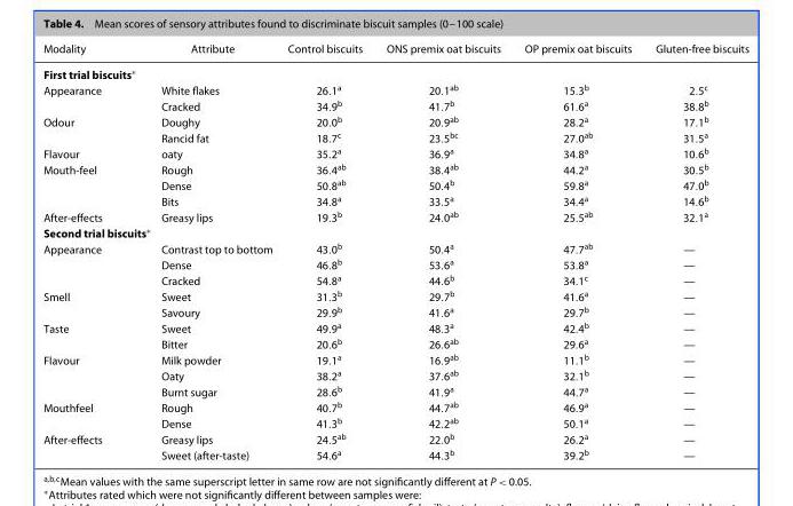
<table><thead><tr><td>Modality</td><td>Attribute</td><td>Control biscuits</td><td>ONS premix oat biscuits</td><td>OP premix oat biscuits</td><td>Gluten-free biscuits</td></tr></thead><tbody><tr><td colspan="6">First trial biscuits∗</td></tr><tr><td rowspan="2">Appearance</td><td>White flakes</td><td>26.1<sup>a</sup></td><td>20.1<sup>ab</sup></td><td>15.3<sup>b</sup></td><td>2.5<sup>c</sup></td></tr><tr><td>Cracked</td><td>34.9<sup>b</sup></td><td>41.7<sup>b</sup></td><td>61.6<sup>a</sup></td><td>38.8<sup>b</sup></td></tr><tr><td rowspan="2">Odour</td><td>Doughy</td><td>20.0<sup>b</sup></td><td>20.9<sup>ab</sup></td><td>28.2<sup>a</sup></td><td>17.1<sup>b</sup></td></tr><tr><td>Rancid fat</td><td>18.7<sup>c</sup></td><td>23.5<sup>bc</sup></td><td>27.0<sup>ab</sup></td><td>31.5<sup>a</sup></td></tr><tr><td>Flavour</td><td>oaty</td><td>35.2<sup>a</sup></td><td>36.9<sup>a</sup></td><td>34.8<sup>a</sup></td><td>10.6<sup>b</sup></td></tr><tr><td rowspan="3">Mouth-feel</td><td>Rough</td><td>36.4<sup>ab</sup></td><td>38.4<sup>ab</sup></td><td>44.2<sup>a</sup></td><td>30.5<sup>b</sup></td></tr><tr><td>Dense</td><td>50.8<sup>ab</sup></td><td>50.4<sup>b</sup></td><td>59.8<sup>a</sup></td><td>47.0<sup>b</sup></td></tr><tr><td>Bits</td><td>34.8<sup>a</sup></td><td>33.5<sup>a</sup></td><td>34.4<sup>a</sup></td><td>14.6<sup>b</sup></td></tr><tr><td>After-effects</td><td>Greasy lips</td><td>19.3<sup>b</sup></td><td>24.0<sup>ab</sup></td><td>25.5<sup>ab</sup></td><td>32.1<sup>a</sup></td></tr><tr><td colspan="6">Second trial biscuits∗</td></tr><tr><td rowspan="3">Appearance</td><td>Contrast top to bottom</td><td>43.0<sup>b</sup></td><td>50.4<sup>a</sup></td><td>47.7<sup>ab</sup></td><td>—</td></tr><tr><td>Dense</td><td>46.8<sup>b</sup></td><td>53.6<sup>a</sup></td><td>53.8<sup>a</sup></td><td>—</td></tr><tr><td>Cracked</td><td>54.8<sup>a</sup></td><td>44.6<sup>b</sup></td><td>34.1<sup>c</sup></td><td>—</td></tr><tr><td rowspan="2">Smell</td><td>Sweet</td><td>31.3<sup>b</sup></td><td>29.7<sup>b</sup></td><td>41.6<sup>a</sup></td><td>—</td></tr><tr><td>Savoury</td><td>29.9<sup>b</sup></td><td>41.6<sup>a</sup></td><td>29.7<sup>b</sup></td><td>—</td></tr><tr><td rowspan="2">Taste</td><td>Sweet</td><td>49.9<sup>a</sup></td><td>48.3<sup>a</sup></td><td>42.4<sup>b</sup></td><td>—</td></tr><tr><td>Bitter</td><td>20.6<sup>b</sup></td><td>26.6<sup>ab</sup></td><td>29.6<sup>a</sup></td><td>—</td></tr><tr><td rowspan="3">Flavour</td><td>Milk powder</td><td>19.1<sup>a</sup></td><td>16.9<sup>ab</sup></td><td>11.1<sup>b</sup></td><td>—</td></tr><tr><td>Oaty</td><td>38.2<sup>a</sup></td><td>37.6<sup>ab</sup></td><td>32.1<sup>b</sup></td><td>—</td></tr><tr><td>Burnt sugar</td><td>28.6<sup>b</sup></td><td>41.9<sup>a</sup></td><td>44.7<sup>a</sup></td><td>—</td></tr><tr><td rowspan="2">Mouthfeel</td><td>Rough</td><td>40.7<sup>b</sup></td><td>44.7<sup>ab</sup></td><td>46.9<sup>a</sup></td><td>—</td></tr><tr><td>Dense</td><td>41.3<sup>b</sup></td><td>42.2<sup>ab</sup></td><td>50.1<sup>a</sup></td><td>—</td></tr><tr><td rowspan="2">After-effects</td><td>Greasy lips</td><td>24.5<sup>ab</sup></td><td>22.0<sup>b</sup></td><td>26.2<sup>a</sup></td><td>—</td></tr><tr><td>Sweet (after-taste)</td><td>54.6<sup>a</sup></td><td>44.3<sup>b</sup></td><td>39.2<sup>b</sup></td><td>—</td></tr></tbody></table>